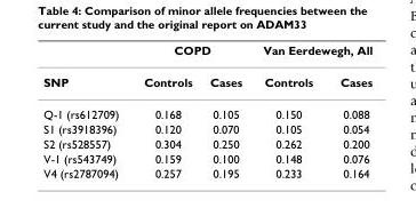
<table><thead><tr><td rowspan="2">SNP</td><td colspan="2">COPD</td><td colspan="2">Van Eerdewegh, All</td></tr><tr><td>Controls</td><td>Cases</td><td>Controls</td><td>Cases</td></tr></thead><tbody><tr><td>Q-1 (rs612709)</td><td>0.168</td><td>0.105</td><td>0.150</td><td>0.088</td></tr><tr><td>S1 (rs3918396)</td><td>0.120</td><td>0.070</td><td>0.105</td><td>0.054</td></tr><tr><td>S2 (rs528557)</td><td>0.304</td><td>0.250</td><td>0.262</td><td>0.200</td></tr><tr><td>V-1 (rs543749)</td><td>0.159</td><td>0.100</td><td>0.148</td><td>0.076</td></tr><tr><td>V4 (rs2787094)</td><td>0.257</td><td>0.195</td><td>0.233</td><td>0.164</td></tr></tbody></table>